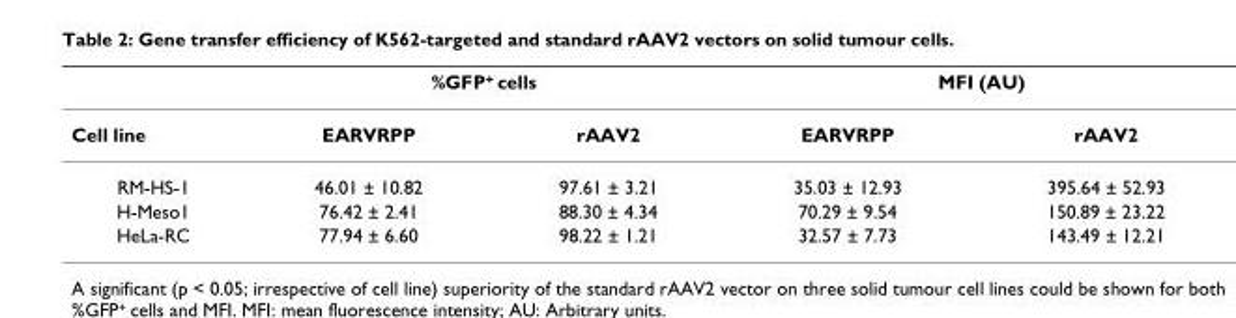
<table><thead><tr><td rowspan="2">Cell line</td><td colspan="2">%GFP<sup>+</sup> cells</td><td colspan="2">MFI (AU)</td></tr><tr><td>EARVRPP</td><td>rAAV2</td><td>EARVRPP</td><td>rAAV2</td></tr></thead><tbody><tr><td>RM-HS-1</td><td>46.01 ± 10.82</td><td>97.61 ± 3.21</td><td>35.03 ± 12.93</td><td>395.64 ± 52.93</td></tr><tr><td>H-Meso1</td><td>76.42 ± 2.41</td><td>88.30 ± 4.34</td><td>70.29 ± 9.54</td><td>150.89 ± 23.22</td></tr><tr><td>HeLa-RC</td><td>77.94 ± 6.60</td><td>98.22 ± 1.21</td><td>32.57 ± 7.73</td><td>143.49 ± 12.21</td></tr></tbody></table>